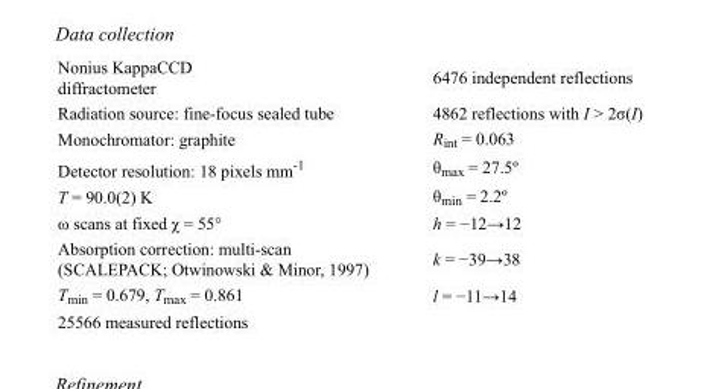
<table><tbody><tr><td>Nonius KappaCCD diffractometer</td><td>6476 independent reflections</td></tr><tr><td>Radiation source: fine-focus sealed tube</td><td>4862 reflections with I &gt; 2σ(I)</td></tr><tr><td>Monochromator: graphite</td><td>R<sub>int</sub> = 0.063</td></tr><tr><td>Detector resolution: 18 pixels mm<sup>-1</sup></td><td>θ<sub>max</sub> = 27.5º</td></tr><tr><td>T = 90.0(2) K</td><td>θ<sub>min</sub> = 2.2º</td></tr><tr><td>ω scans at fixed χ = 55°</td><td>h = −12→12</td></tr><tr><td>Absorption correction: multi-scan (SCALEPACK; Otwinowski &amp; Minor, 1997)</td><td>k = −39→38</td></tr><tr><td>T<sub>min</sub> = 0.679, T<sub>max</sub> = 0.861</td><td>l = −11→14</td></tr><tr><td>25566 measured reflections</td><td></td></tr></tbody></table>